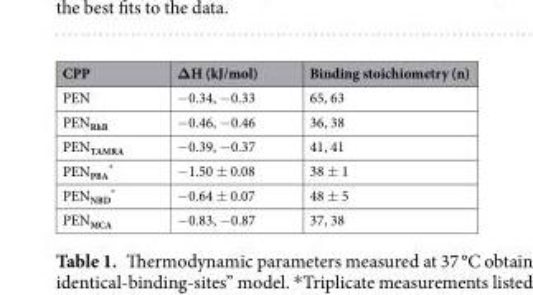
<table><thead><tr><td>CPP</td><td>ΔH (kJ/mol)</td><td>Binding stoichiometry (n)</td></tr></thead><tbody><tr><td>PEN</td><td>−0.34, −0.33</td><td>65, 63</td></tr><tr><td>PEN<sub>RhB</sub></td><td>−0.46, −0.46</td><td>36, 38</td></tr><tr><td>PEN<sub>TAMRA</sub></td><td>−0.39, −0.37</td><td>41, 41</td></tr><tr><td>PEN<sub>PBA</sub> *</td><td>−1.50 ± 0.08</td><td>38 ± 1</td></tr><tr><td>PEN<sub>NBD</sub> *</td><td>−0.64 ± 0.07</td><td>48 ± 5</td></tr><tr><td>PEN<sub>MCA</sub></td><td>−0.83, −0.87</td><td>37, 38</td></tr></tbody></table>